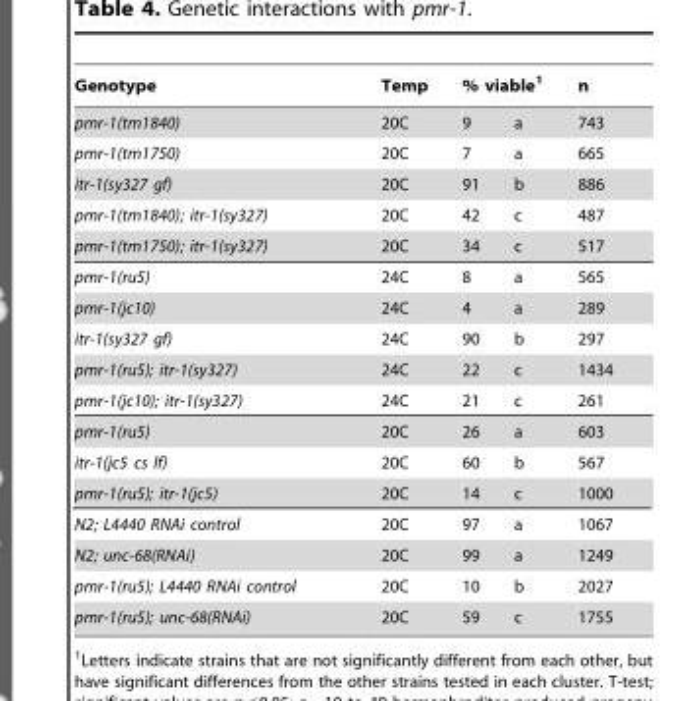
<table><thead><tr><td rowspan="2">Genotype pmr-1(tm1840)</td><td rowspan="2">Temp 20C</td><td colspan="2">% viable<sup>1</sup></td><td rowspan="2">n 743</td></tr><tr><td>9</td><td>a</td></tr></thead><tbody><tr><td>pmr-1(tm1750)</td><td>20C</td><td>7</td><td>a</td><td>665</td></tr><tr><td>itr-1(sy327 gf)</td><td>20C</td><td>91</td><td>b</td><td>886</td></tr><tr><td>pmr-1(tm1840); itr-1(sy327)</td><td>20C</td><td>42</td><td>c</td><td>487</td></tr><tr><td>pmr-1(tm1750); itr-1(sy327)</td><td>20C</td><td>34</td><td>c</td><td>517</td></tr><tr><td>pmr-1(ru5)</td><td>24C</td><td>8</td><td>a</td><td>565</td></tr><tr><td>pmr-1(jc10)</td><td>24C</td><td>4</td><td>a</td><td>289</td></tr><tr><td>itr-1(sy327 gf)</td><td>24C</td><td>90</td><td>b</td><td>297</td></tr><tr><td>pmr-1(ru5); itr-1(sy327)</td><td>24C</td><td>22</td><td>c</td><td>1434</td></tr><tr><td>pmr-1(jc10); itr-1(sy327)</td><td>24C</td><td>21</td><td>c</td><td>261</td></tr><tr><td>pmr-1(ru5)</td><td>20C</td><td>26</td><td>a</td><td>603</td></tr><tr><td>itr-1(jc5 cs lf)</td><td>20C</td><td>60</td><td>b</td><td>567</td></tr><tr><td>pmr-1(ru5); itr-1(jc5)</td><td>20C</td><td>14</td><td>c</td><td>1000</td></tr><tr><td>N2; L4440 RNAi control</td><td>20C</td><td>97</td><td>a</td><td>1067</td></tr><tr><td>N2; unc-68(RNAi)</td><td>20C</td><td>99</td><td>a</td><td>1249</td></tr><tr><td>pmr-1(ru5); L4440 RNAi control</td><td>20C</td><td>10</td><td>b</td><td>2027</td></tr><tr><td>pmr-1(ru5); unc-68(RNAi)</td><td>20C</td><td>59</td><td>c</td><td>1755</td></tr></tbody></table>